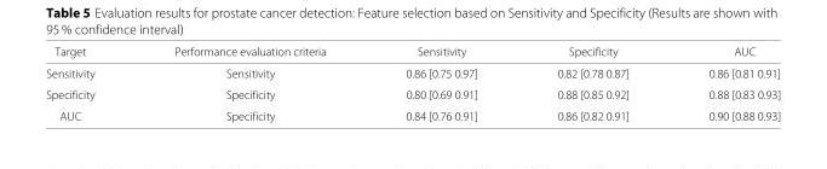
<table><thead><tr><td>Target</td><td>Performance evaluation criteria</td><td>Sensitivity</td><td>Specificity</td><td>AUC</td></tr></thead><tbody><tr><td>Sensitivity</td><td>Sensitivity</td><td>0.86 [0.75 0.97]</td><td>0.82 [0.78 0.87]</td><td>0.86 [0.81 0.91]</td></tr><tr><td>Specificity</td><td>Specificity</td><td>0.80 [0.69 0.91]</td><td>0.88 [0.85 0.92]</td><td>0.88 [0.83 0.93]</td></tr><tr><td>AUC</td><td>Specificity</td><td>0.84 [0.76 0.91]</td><td>0.86 [0.82 0.91]</td><td>0.90 [0.88 0.93]</td></tr></tbody></table>